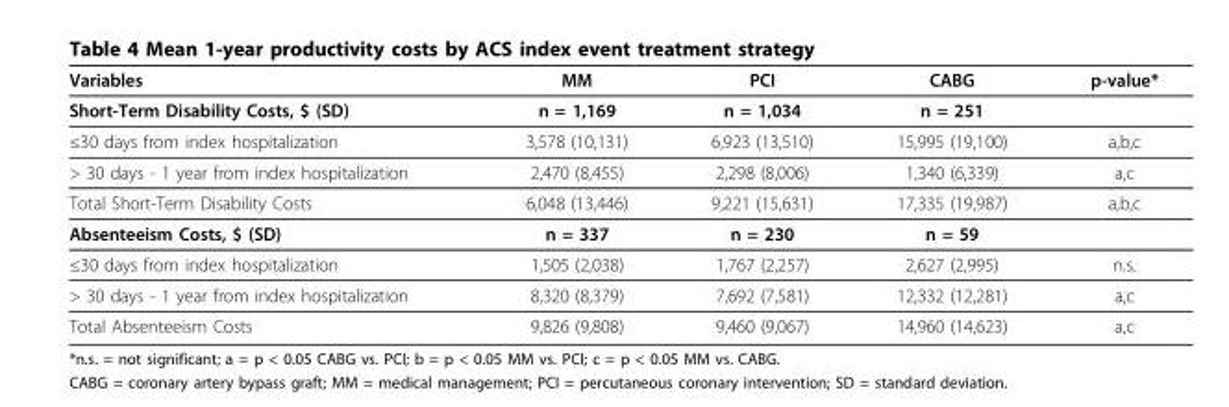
<table><thead><tr><td>Variables</td><td>MM</td><td>PCI</td><td>CABG</td><td>p-value*</td></tr></thead><tbody><tr><td>Short-Term Disability Costs, $ (SD)</td><td>n = 1,169</td><td>n = 1,034</td><td>n = 251</td><td></td></tr><tr><td>≤30 days from index hospitalization</td><td>3,578 (10,131)</td><td>6,923 (13,510)</td><td>15,995 (19,100)</td><td>a,b,c</td></tr><tr><td>&gt; 30 days - 1 year from index hospitalization</td><td>2,470 (8,455)</td><td>2,298 (8,006)</td><td>1,340 (6,339)</td><td>a,c</td></tr><tr><td>Total Short-Term Disability Costs</td><td>6,048 (13,446)</td><td>9,221 (15,631)</td><td>17,335 (19,987)</td><td>a,b,c</td></tr><tr><td>Absenteeism Costs, $ (SD)</td><td>n = 337</td><td>n = 230</td><td>n = 59</td><td></td></tr><tr><td>≤30 days from index hospitalization</td><td>1,505 (2,038)</td><td>1,767 (2,257)</td><td>2,627 (2,995)</td><td>n.s.</td></tr><tr><td>&gt; 30 days - 1 year from index hospitalization</td><td>8,320 (8,379)</td><td>7,692 (7,581)</td><td>12,332 (12,281)</td><td>a,c</td></tr><tr><td>Total Absenteeism Costs</td><td>9,826 (9,808)</td><td>9,460 (9,067)</td><td>14,960 (14,623)</td><td>a,c</td></tr></tbody></table>